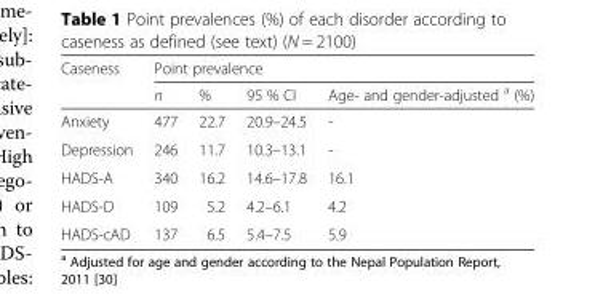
<table><thead><tr><td rowspan="2">Caseness</td><td colspan="4">Point prevalence</td></tr><tr><td>n</td><td>%</td><td>95 % CI</td><td>Age- and gender-adjusted <sup>a</sup> (%)</td></tr></thead><tbody><tr><td>Anxiety</td><td>477</td><td>22.7</td><td>20.9–24.5</td><td>-</td></tr><tr><td>Depression</td><td>246</td><td>11.7</td><td>10.3–13.1</td><td>-</td></tr><tr><td>HADS-A</td><td>340</td><td>16.2</td><td>14.6–17.8</td><td>16.1</td></tr><tr><td>HADS-D</td><td>109</td><td>5.2</td><td>4.2–6.1</td><td>4.2</td></tr><tr><td>HADS-cAD</td><td>137</td><td>6.5</td><td>5.4–7.5</td><td>5.9</td></tr></tbody></table>